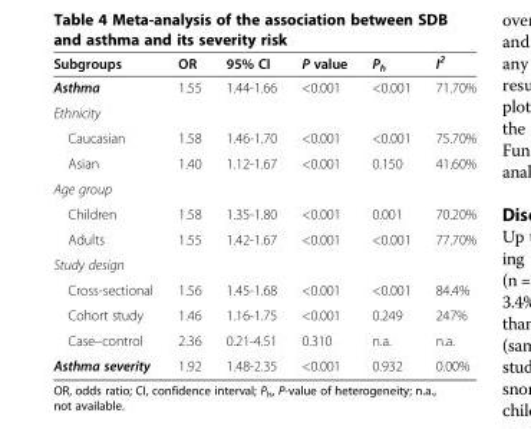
<table><thead><tr><td>Subgroups</td><td>OR</td><td>95% CI</td><td>P value</td><td>P<sub>h</sub></td><td>I<sup>2</sup></td></tr></thead><tbody><tr><td>Asthma</td><td>1.55</td><td>1.44-1.66</td><td>&lt;0.001</td><td>&lt;0.001</td><td>71.70%</td></tr><tr><td colspan="6">Ethnicity</td></tr><tr><td>Caucasian</td><td>1.58</td><td>1.46-1.70</td><td>&lt;0.001</td><td>&lt;0.001</td><td>75.70%</td></tr><tr><td>Asian</td><td>1.40</td><td>1.12-1.67</td><td>&lt;0.001</td><td>0.150</td><td>41.60%</td></tr><tr><td colspan="6">Age group</td></tr><tr><td>Children</td><td>1.58</td><td>1.35-1.80</td><td>&lt;0.001</td><td>0.001</td><td>70.20%</td></tr><tr><td>Adults</td><td>1.55</td><td>1.42-1.67</td><td>&lt;0.001</td><td>&lt;0.001</td><td>77.70%</td></tr><tr><td colspan="6">Study design</td></tr><tr><td>Cross-sectional</td><td>1.56</td><td>1.45-1.68</td><td>&lt;0.001</td><td>&lt;0.001</td><td>84.4%</td></tr><tr><td>Cohort study</td><td>1.46</td><td>1.16-1.75</td><td>&lt;0.001</td><td>0.249</td><td>247%</td></tr><tr><td>Case–control</td><td>2.36</td><td>0.21-4.51</td><td>0.310</td><td>n.a.</td><td>n.a.</td></tr><tr><td>Asthma severity</td><td>1.92</td><td>1.48-2.35</td><td>&lt;0.001</td><td>0.932</td><td>0.00%</td></tr></tbody></table>